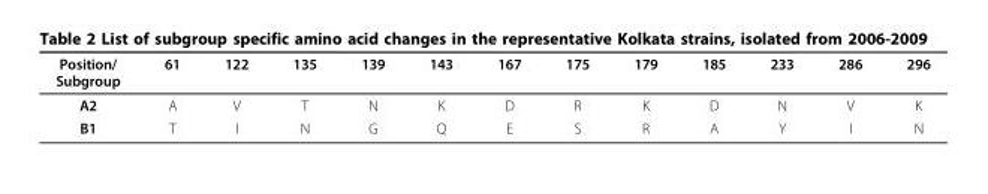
<table><thead><tr><td>Position/ Subgroup</td><td>61</td><td>122</td><td>135</td><td>139</td><td>143</td><td>167</td><td>175</td><td>179</td><td>185</td><td>233</td><td>286</td><td>296</td></tr></thead><tbody><tr><td>A2</td><td>A</td><td>V</td><td>T</td><td>N</td><td>K</td><td>D</td><td>R</td><td>K</td><td>D</td><td>N</td><td>V</td><td>K</td></tr><tr><td>B1</td><td>T</td><td>I</td><td>N</td><td>G</td><td>Q</td><td>E</td><td>S</td><td>R</td><td>A</td><td>Y</td><td>I</td><td>N</td></tr></tbody></table>